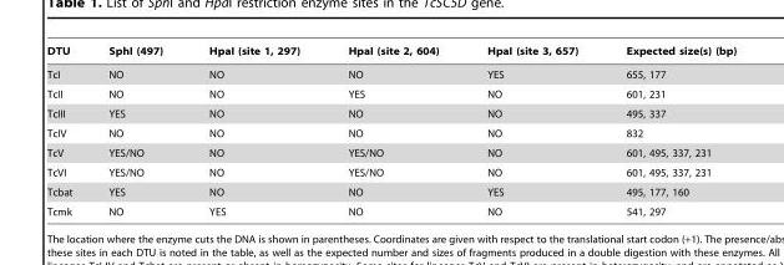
<table><thead><tr><td>DTU</td><td>SphI (497)</td><td>HpaI (site 1, 297)</td><td>HpaI (site 2, 604)</td><td>HpaI (site 3, 657)</td><td>Expected size(s) (bp)</td></tr></thead><tbody><tr><td>TcI</td><td>NO</td><td>NO</td><td>NO</td><td>YES</td><td>655, 177</td></tr><tr><td>TcII</td><td>NO</td><td>NO</td><td>YES</td><td>NO</td><td>601, 231</td></tr><tr><td>TcIII</td><td>YES</td><td>NO</td><td>NO</td><td>NO</td><td>495, 337</td></tr><tr><td>TcIV</td><td>NO</td><td>NO</td><td>NO</td><td>NO</td><td>832</td></tr><tr><td>TcV</td><td>YES/NO</td><td>NO</td><td>YES/NO</td><td>NO</td><td>601, 495, 337, 231</td></tr><tr><td>TcVI</td><td>YES/NO</td><td>NO</td><td>YES/NO</td><td>NO</td><td>601, 495, 337, 231</td></tr><tr><td>Tcbat</td><td>YES</td><td>NO</td><td>NO</td><td>YES</td><td>495, 177, 160</td></tr><tr><td>Tcmk</td><td>NO</td><td>YES</td><td>NO</td><td>NO</td><td>541, 297</td></tr></tbody></table>